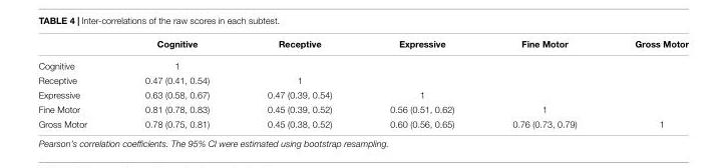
<table><thead><tr><td></td><td>Cognitive</td><td>Receptive</td><td>Expressive</td><td>Fine Motor</td><td>Gross Motor</td></tr></thead><tbody><tr><td>Cognitive</td><td>1</td><td></td><td></td><td></td><td></td></tr><tr><td>Receptive</td><td>0.47 (0.41, 0.54)</td><td>1</td><td></td><td></td><td></td></tr><tr><td>Expressive</td><td>0.63 (0.58, 0.67)</td><td>0.47 (0.39, 0.54)</td><td>1</td><td></td><td></td></tr><tr><td>Fine Motor</td><td>0.81 (0.78, 0.83)</td><td>0.45 (0.39, 0.52)</td><td>0.56 (0.51, 0.62)</td><td>1</td><td></td></tr><tr><td>Gross Motor</td><td>0.78 (0.75, 0.81)</td><td>0.45 (0.38, 0.52)</td><td>0.60 (0.56, 0.65)</td><td>0.76 (0.73, 0.79)</td><td>1</td></tr></tbody></table>